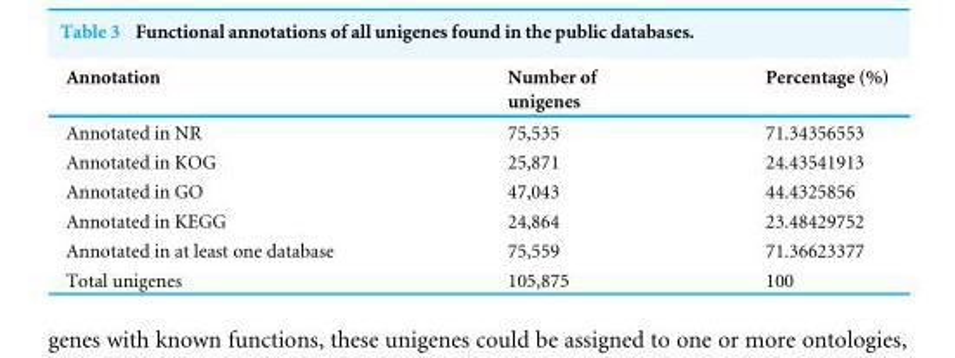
<table><thead><tr><td>Annotation</td><td>Number of unigenes</td><td>Percentage (%)</td></tr></thead><tbody><tr><td>Annotated in NR</td><td>75,535</td><td>71.34356553</td></tr><tr><td>Annotated in KOG</td><td>25,871</td><td>24.43541913</td></tr><tr><td>Annotated in GO</td><td>47,043</td><td>44.4325856</td></tr><tr><td>Annotated in KEGG</td><td>24,864</td><td>23.48429752</td></tr><tr><td>Annotated in at least one database</td><td>75,559</td><td>71.36623377</td></tr><tr><td>Total unigenes</td><td>105,875</td><td>100</td></tr></tbody></table>